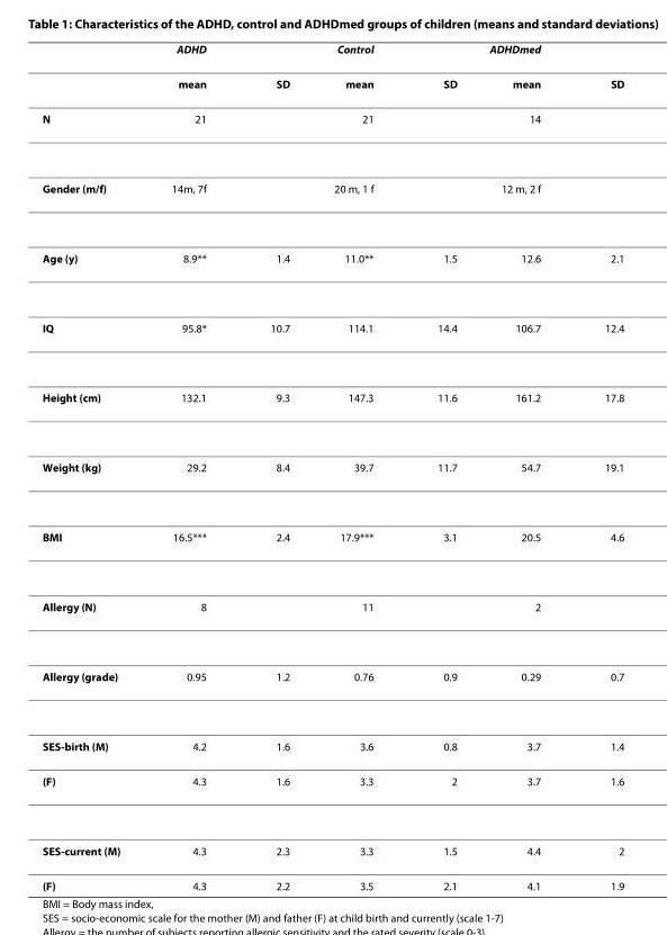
<table><thead><tr><td></td><td>ADHD</td><td></td><td>Control</td><td></td><td>ADHDmed</td><td></td></tr></thead><tbody><tr><td></td><td>mean</td><td>SD</td><td>mean</td><td>SD</td><td>mean</td><td>SD</td></tr><tr><td>N</td><td>21</td><td></td><td>21</td><td></td><td>14</td><td></td></tr><tr><td>Gender (m/f)</td><td>14m, 7f</td><td></td><td>20 m, 1 f</td><td></td><td>12 m, 2 f</td><td></td></tr><tr><td>Age (y)</td><td>8.9**</td><td>1.4</td><td>11.0**</td><td>1.5</td><td>12.6</td><td>2.1</td></tr><tr><td>IQ</td><td>95.8*</td><td>10.7</td><td>114.1</td><td>14.4</td><td>106.7</td><td>12.4</td></tr><tr><td>Height (cm)</td><td>132.1</td><td>9.3</td><td>147.3</td><td>11.6</td><td>161.2</td><td>17.8</td></tr><tr><td>Weight (kg)</td><td>29.2</td><td>8.4</td><td>39.7</td><td>11.7</td><td>54.7</td><td>19.1</td></tr><tr><td>BMI</td><td>16.5***</td><td>2.4</td><td>17.9***</td><td>3.1</td><td>20.5</td><td>4.6</td></tr><tr><td>Allergy (N)</td><td>8</td><td></td><td>11</td><td></td><td>2</td><td></td></tr><tr><td>Allergy (grade)</td><td>0.95</td><td>1.2</td><td>0.76</td><td>0.9</td><td>0.29</td><td>0.7</td></tr><tr><td>SES-birth (M)</td><td>4.2</td><td>1.6</td><td>3.6</td><td>0.8</td><td>3.7</td><td>1.4</td></tr><tr><td>(F)</td><td>4.3</td><td>1.6</td><td>3.3</td><td>2</td><td>3.7</td><td>1.6</td></tr><tr><td>SES-current (M)</td><td>4.3</td><td>2.3</td><td>3.3</td><td>1.5</td><td>4.4</td><td>2</td></tr><tr><td>(F)</td><td>4.3</td><td>2.2</td><td>3.5</td><td>2.1</td><td>4.1</td><td>1.9</td></tr></tbody></table>